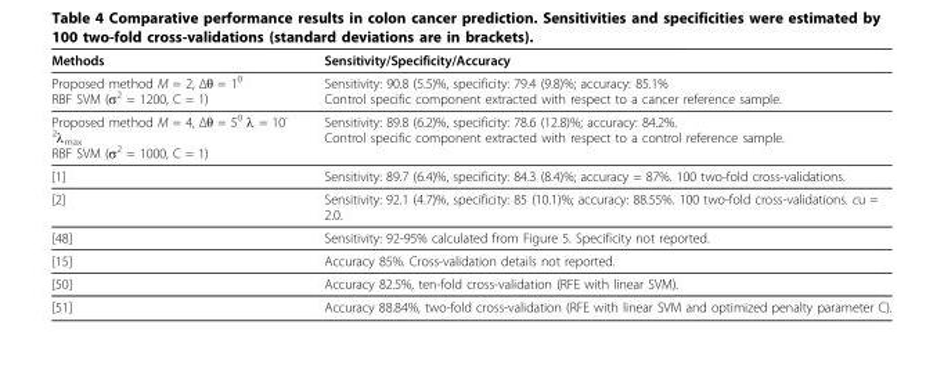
<table><thead><tr><td>Methods</td><td>Sensitivity/Specificity/Accuracy</td></tr></thead><tbody><tr><td>Proposed method M = 2, Δθ = 1<sup>0</sup> RBF SVM (σ<sup>2</sup> = 1200, C = 1)</td><td>Sensitivity: 90.8 (5.5)%, specificity: 79.4 (9.8)%; accuracy: 85.1% Control specific component extracted with respect to a cancer reference sample.</td></tr><tr><td>Proposed method M = 4, Δθ = 5<sup>0</sup> λ = 10<sup>- 2</sup>λ<sub>max</sub> RBF SVM (σ<sup>2</sup> = 1000, C = 1)</td><td>Sensitivity: 89.8 (6.2)%, specificity: 78.6 (12.8)%; accuracy: 84.2%. Control specific component extracted with respect to a control reference sample.</td></tr><tr><td>[1]</td><td>Sensitivity: 89.7 (6.4)%, specificity: 84.3 (8.4)%; accuracy = 87%. 100 two-fold cross-validations.</td></tr><tr><td>[2]</td><td>Sensitivity: 92.1 (4.7)%, specificity: 85 (10.1)%; accuracy: 88.55%. 100 two-fold cross-validations. cu = 2.0.</td></tr><tr><td>[48]</td><td>Sensitivity: 92-95% calculated from Figure 5. Specificity not reported.</td></tr><tr><td>[15]</td><td>Accuracy 85%. Cross-validation details not reported.</td></tr><tr><td>[50]</td><td>Accuracy 82.5%, ten-fold cross-validation (RFE with linear SVM).</td></tr><tr><td>[51]</td><td>Accuracy 88.84%, two-fold cross-validation (RFE with linear SVM and optimized penalty parameter C).</td></tr></tbody></table>